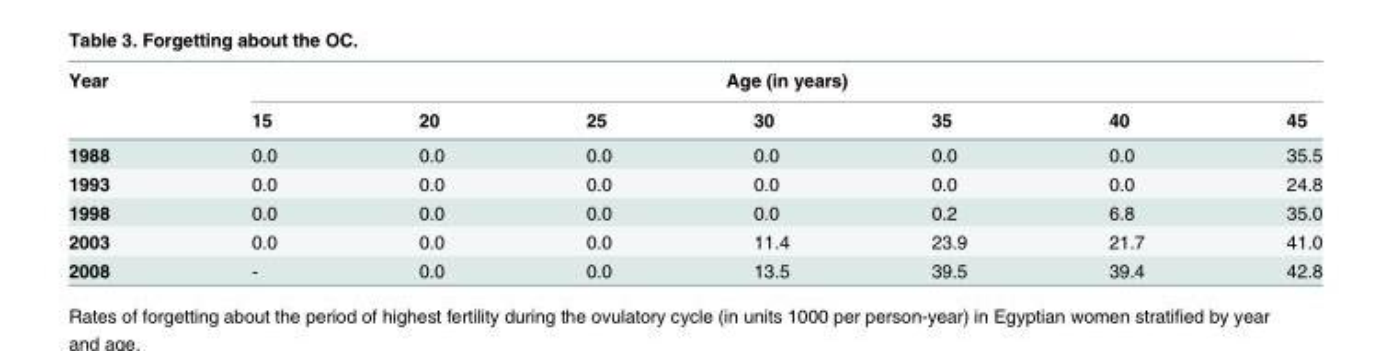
<table><thead><tr><td rowspan="2">Year</td><td colspan="7">Age (in years)</td></tr><tr><td>15</td><td>20</td><td>25</td><td>30</td><td>35</td><td>40</td><td>45</td></tr></thead><tbody><tr><td>1988</td><td>0.0</td><td>0.0</td><td>0.0</td><td>0.0</td><td>0.0</td><td>0.0</td><td>35.5</td></tr><tr><td>1993</td><td>0.0</td><td>0.0</td><td>0.0</td><td>0.0</td><td>0.0</td><td>0.0</td><td>24.8</td></tr><tr><td>1998</td><td>0.0</td><td>0.0</td><td>0.0</td><td>0.0</td><td>0.2</td><td>6.8</td><td>35.0</td></tr><tr><td>2003</td><td>0.0</td><td>0.0</td><td>0.0</td><td>11.4</td><td>23.9</td><td>21.7</td><td>41.0</td></tr><tr><td>2008</td><td>-</td><td>0.0</td><td>0.0</td><td>13.5</td><td>39.5</td><td>39.4</td><td>42.8</td></tr></tbody></table>